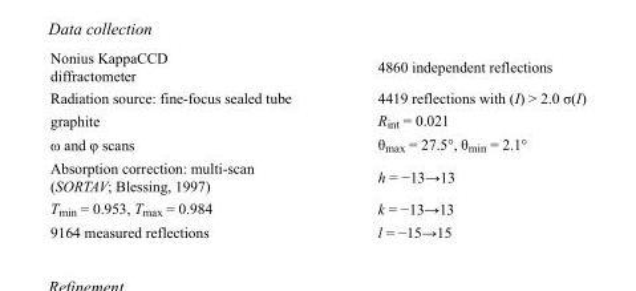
<table><tbody><tr><td>Nonius KappaCCD diffractometer</td><td>4860 independent reflections</td></tr><tr><td>Radiation source: fine-focus sealed tube</td><td>4419 reflections with (I) &gt; 2.0 σ(I)</td></tr><tr><td>graphite</td><td>R<sub>int</sub> = 0.021</td></tr><tr><td>ω and φ scans</td><td>θ<sub>max</sub> = 27.5°, θ<sub>min</sub> = 2.1°</td></tr><tr><td>Absorption correction: multi-scan (SORTAV; Blessing, 1997)</td><td>h = −13→13</td></tr><tr><td>T<sub>min</sub> = 0.953, T<sub>max</sub> = 0.984</td><td>k = −13→13</td></tr><tr><td>9164 measured reflections</td><td>l = −15→15</td></tr></tbody></table>